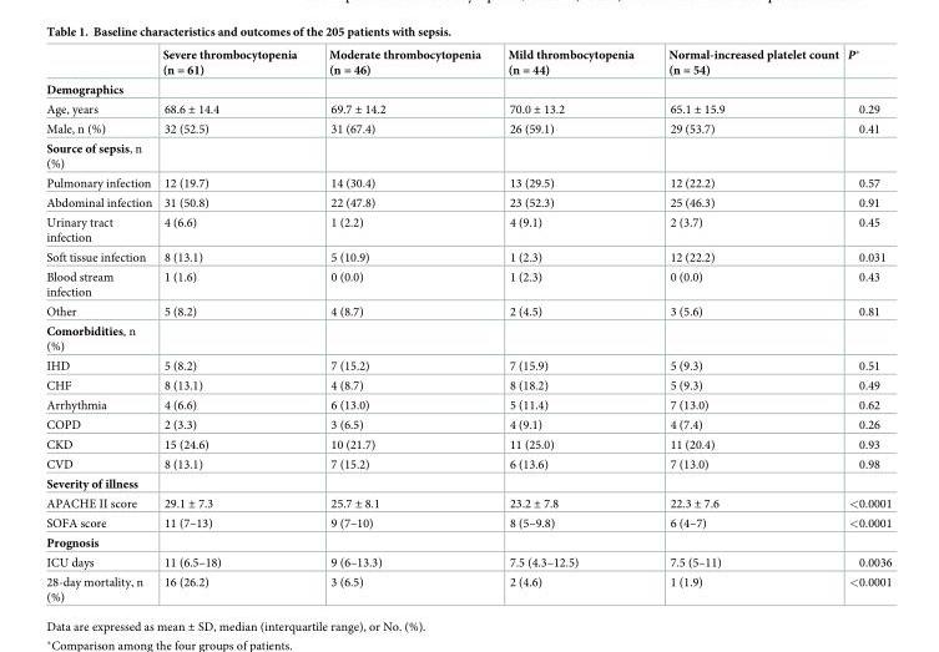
<table><thead><tr><td></td><td>Severe thrombocytopenia (n = 61)</td><td>Moderate thrombocytopenia (n = 46)</td><td>Mild thrombocytopenia (n = 44)</td><td>Normal-increased platelet count (n = 54)</td><td>P*</td></tr></thead><tbody><tr><td colspan="6">Demographics</td></tr><tr><td>Age, years</td><td>68.6 ± 14.4</td><td>69.7 ± 14.2</td><td>70.0 ± 13.2</td><td>65.1 ± 15.9</td><td>0.29</td></tr><tr><td>Male, n (%)</td><td>32 (52.5)</td><td>31 (67.4)</td><td>26 (59.1)</td><td>29 (53.7)</td><td>0.41</td></tr><tr><td colspan="6">Source of sepsis, n (%)</td></tr><tr><td>Pulmonary infection</td><td>12 (19.7)</td><td>14 (30.4)</td><td>13 (29.5)</td><td>12 (22.2)</td><td>0.57</td></tr><tr><td>Abdominal infection</td><td>31 (50.8)</td><td>22 (47.8)</td><td>23 (52.3)</td><td>25 (46.3)</td><td>0.91</td></tr><tr><td>Urinary tract infection</td><td>4 (6.6)</td><td>1 (2.2)</td><td>4 (9.1)</td><td>2 (3.7)</td><td>0.45</td></tr><tr><td>Soft tissue infection</td><td>8 (13.1)</td><td>5 (10.9)</td><td>1 (2.3)</td><td>12 (22.2)</td><td>0.031</td></tr><tr><td>Blood stream infection</td><td>1 (1.6)</td><td>0 (0.0)</td><td>1 (2.3)</td><td>0 (0.0)</td><td>0.43</td></tr><tr><td>Other</td><td>5 (8.2)</td><td>4 (8.7)</td><td>2 (4.5)</td><td>3 (5.6)</td><td>0.81</td></tr><tr><td colspan="6">Comorbidities, n (%)</td></tr><tr><td>IHD</td><td>5 (8.2)</td><td>7 (15.2)</td><td>7 (15.9)</td><td>5 (9.3)</td><td>0.51</td></tr><tr><td>CHF</td><td>8 (13.1)</td><td>4 (8.7)</td><td>8 (18.2)</td><td>5 (9.3)</td><td>0.49</td></tr><tr><td>Arrhythmia</td><td>4 (6.6)</td><td>6 (13.0)</td><td>5 (11.4)</td><td>7 (13.0)</td><td>0.62</td></tr><tr><td>COPD</td><td>2 (3.3)</td><td>3 (6.5)</td><td>4 (9.1)</td><td>4 (7.4)</td><td>0.26</td></tr><tr><td>CKD</td><td>15 (24.6)</td><td>10 (21.7)</td><td>11 (25.0)</td><td>11 (20.4)</td><td>0.93</td></tr><tr><td>CVD</td><td>8 (13.1)</td><td>7 (15.2)</td><td>6 (13.6)</td><td>7 (13.0)</td><td>0.98</td></tr><tr><td colspan="6">Severity of illness</td></tr><tr><td>APACHE II score</td><td>29.1 ± 7.3</td><td>25.7 ± 8.1</td><td>23.2 ± 7.8</td><td>22.3 ± 7.6</td><td>&lt;0.0001</td></tr><tr><td>SOFA score</td><td>11 (7–13)</td><td>9 (7–10)</td><td>8 (5–9.8)</td><td>6 (4–7)</td><td>&lt;0.0001</td></tr><tr><td colspan="6">Prognosis</td></tr><tr><td>ICU days</td><td>11 (6.5–18)</td><td>9 (6–13.3)</td><td>7.5 (4.3–12.5)</td><td>7.5 (5–11)</td><td>0.0036</td></tr><tr><td>28-day mortality, n (%)</td><td>16 (26.2)</td><td>3 (6.5)</td><td>2 (4.6)</td><td>1 (1.9)</td><td>&lt;0.0001</td></tr></tbody></table>